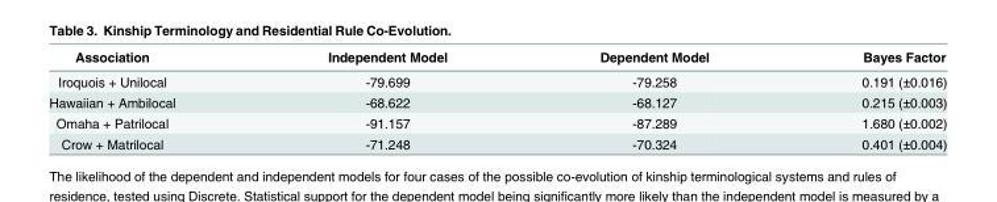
<table><thead><tr><td>Association</td><td>Independent Model</td><td>Dependent Model</td><td>Bayes Factor</td></tr></thead><tbody><tr><td>Iroquois + Unilocal</td><td>-79.699</td><td>-79.258</td><td>0.191 (±0.016)</td></tr><tr><td>Hawaiian + Ambilocal</td><td>-68.622</td><td>-68.127</td><td>0.215 (±0.003)</td></tr><tr><td>Omaha + Patrilocal</td><td>-91.157</td><td>-87.289</td><td>1.680 (±0.002)</td></tr><tr><td>Crow + Matrilocal</td><td>-71.248</td><td>-70.324</td><td>0.401 (±0.004)</td></tr></tbody></table>